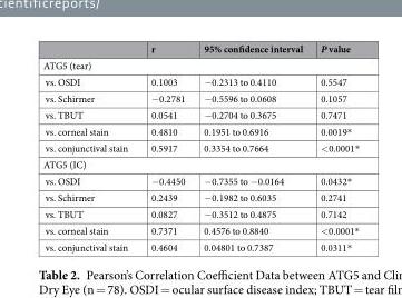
<table><thead><tr><td></td><td>r</td><td>95% confidence interval</td><td>P value</td></tr></thead><tbody><tr><td colspan="4">ATG5 (tear)</td></tr><tr><td>vs. OSDI</td><td>0.1003</td><td>−0.2313 to 0.4110</td><td>0.5547</td></tr><tr><td>vs. Schirmer</td><td>−0.2781</td><td>−0.5596 to 0.0608</td><td>0.1057</td></tr><tr><td>vs. TBUT</td><td>0.0541</td><td>−0.2704 to 0.3675</td><td>0.7471</td></tr><tr><td>vs. corneal stain</td><td>0.4810</td><td>0.1951 to 0.6916</td><td>0.0019*</td></tr><tr><td>vs. conjunctival stain</td><td>0.5917</td><td>0.3354 to 0.7664</td><td>&lt;0.0001*</td></tr><tr><td colspan="4">ATG5 (IC)</td></tr><tr><td>vs. OSDI</td><td>−0.4450</td><td>−0.7355 to −0.0164</td><td>0.0432*</td></tr><tr><td>vs. Schirmer</td><td>0.2439</td><td>−0.1982 to 0.6035</td><td>0.2741</td></tr><tr><td>vs. TBUT</td><td>0.0827</td><td>−0.3512 to 0.4875</td><td>0.7142</td></tr><tr><td>vs. corneal stain</td><td>0.7371</td><td>0.4576 to 0.8840</td><td>&lt;0.0001*</td></tr><tr><td>vs. conjunctival stain</td><td>0.4604</td><td>0.04801 to 0.7387</td><td>0.0311*</td></tr></tbody></table>